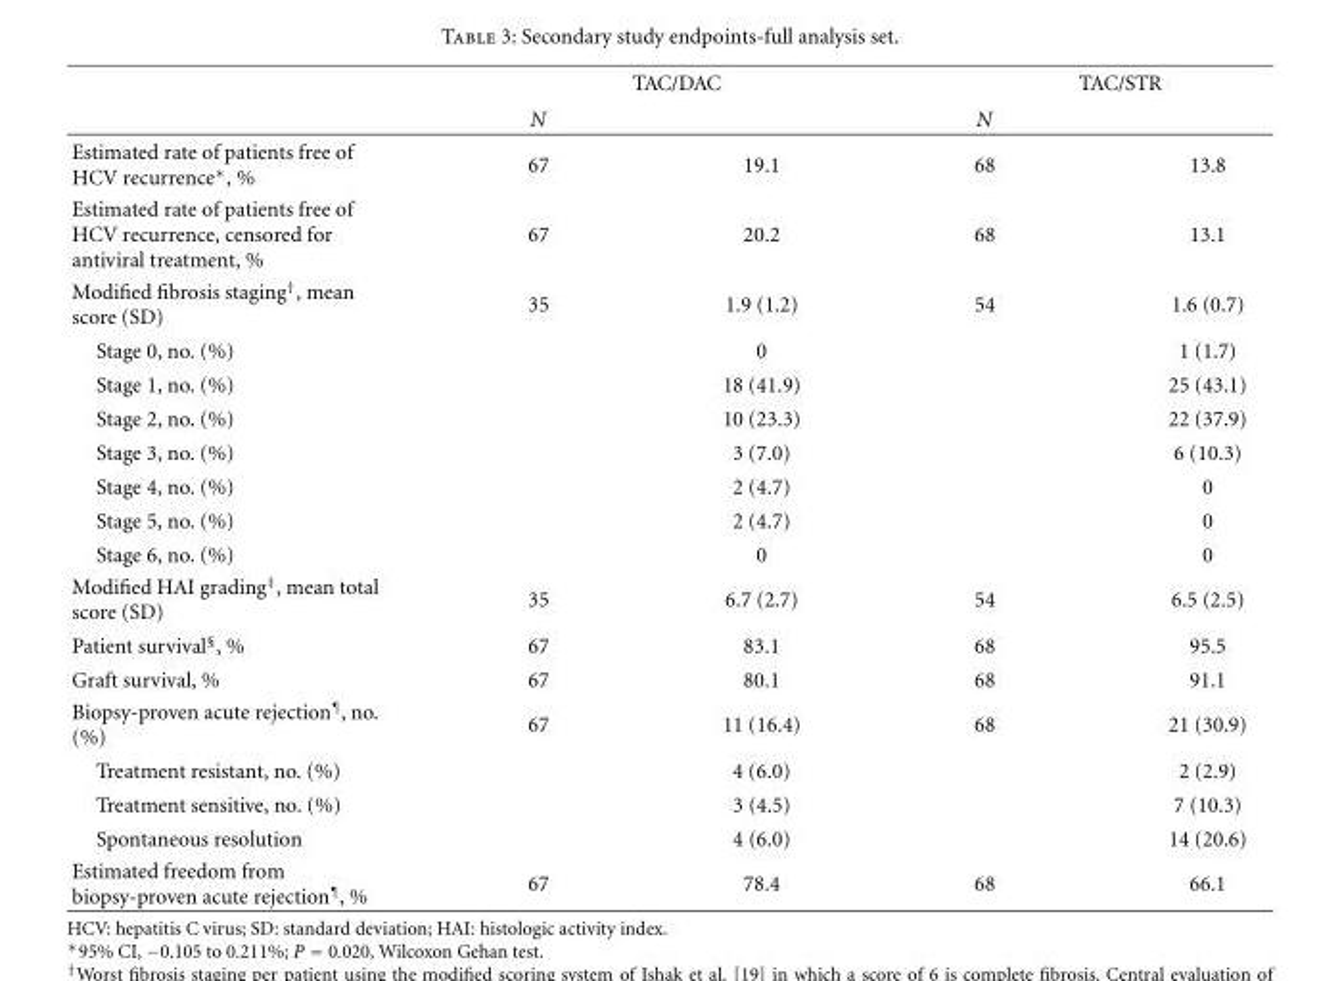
<table><thead><tr><td rowspan="2"></td><td colspan="2">TAC/DAC</td><td colspan="2">TAC/STR</td></tr><tr><td>N</td><td></td><td>N</td><td></td></tr></thead><tbody><tr><td>Estimated rate of patients free of HCV recurrence∗, %</td><td>67</td><td>19.1</td><td>68</td><td>13.8</td></tr><tr><td>Estimated rate of patients free of HCV recurrence, censored for antiviral treatment, %</td><td>67</td><td>20.2</td><td>68</td><td>13.1</td></tr><tr><td>Modified fibrosis staging<sup>†</sup>, mean score (SD)</td><td>35</td><td>1.9 (1.2)</td><td>54</td><td>1.6 (0.7)</td></tr><tr><td>Stage 0, no. (%)</td><td></td><td>0</td><td></td><td>1 (1.7)</td></tr><tr><td>Stage 1, no. (%)</td><td></td><td>18 (41.9)</td><td></td><td>25 (43.1)</td></tr><tr><td>Stage 2, no. (%)</td><td></td><td>10 (23.3)</td><td></td><td>22 (37.9)</td></tr><tr><td>Stage 3, no. (%)</td><td></td><td>3 (7.0)</td><td></td><td>6 (10.3)</td></tr><tr><td>Stage 4, no. (%)</td><td></td><td>2 (4.7)</td><td></td><td>0</td></tr><tr><td>Stage 5, no. (%)</td><td></td><td>2 (4.7)</td><td></td><td>0</td></tr><tr><td>Stage 6, no. (%)</td><td></td><td>0</td><td></td><td>0</td></tr><tr><td>Modified HAI grading<sup>‡</sup>, mean total score (SD)</td><td>35</td><td>6.7 (2.7)</td><td>54</td><td>6.5 (2.5)</td></tr><tr><td>Patient survival<sup>§</sup>, %</td><td>67</td><td>83.1</td><td>68</td><td>95.5</td></tr><tr><td>Graft survival, %</td><td>67</td><td>80.1</td><td>68</td><td>91.1</td></tr><tr><td>Biopsy-proven acute rejection<sup>¶</sup>, no. (%)</td><td>67</td><td>11 (16.4)</td><td>68</td><td>21 (30.9)</td></tr><tr><td>Treatment resistant, no. (%)</td><td></td><td>4 (6.0)</td><td></td><td>2 (2.9)</td></tr><tr><td>Treatment sensitive, no. (%)</td><td></td><td>3 (4.5)</td><td></td><td>7 (10.3)</td></tr><tr><td>Spontaneous resolution</td><td></td><td>4 (6.0)</td><td></td><td>14 (20.6)</td></tr><tr><td>Estimated freedom from biopsy-proven acute rejection<sup>¶</sup>, %</td><td>67</td><td>78.4</td><td>68</td><td>66.1</td></tr></tbody></table>